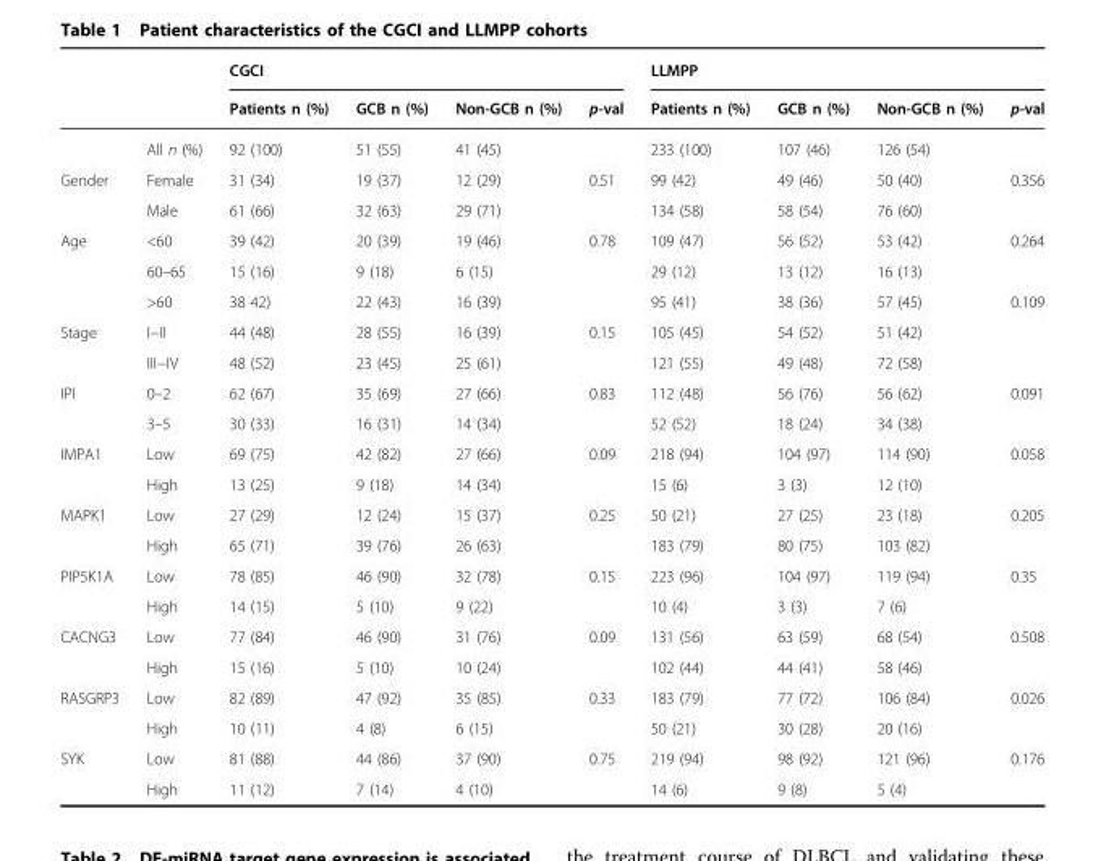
<table><thead><tr><td rowspan="2"></td><td rowspan="2"></td><td colspan="4">CGCI</td><td colspan="4">LLMPP</td></tr><tr><td>Patients n (%)</td><td>GCB n (%)</td><td>Non-GCB n (%)</td><td>p-val</td><td>Patients n (%)</td><td>GCB n (%)</td><td>Non-GCB n (%)</td><td>p-val</td></tr></thead><tbody><tr><td></td><td>All n (%)</td><td>92 (100)</td><td>51 (55)</td><td>41 (45)</td><td></td><td>233 (100)</td><td>107 (46)</td><td>126 (54)</td><td></td></tr><tr><td rowspan="2">Gender</td><td>Female</td><td>31 (34)</td><td>19 (37)</td><td>12 (29)</td><td>0.51</td><td>99 (42)</td><td>49 (46)</td><td>50 (40)</td><td>0.356</td></tr><tr><td>Male</td><td>61 (66)</td><td>32 (63)</td><td>29 (71)</td><td></td><td>134 (58)</td><td>58 (54)</td><td>76 (60)</td><td></td></tr><tr><td rowspan="3">Age</td><td>&lt;60</td><td>39 (42)</td><td>20 (39)</td><td>19 (46)</td><td>0.78</td><td>109 (47)</td><td>56 (52)</td><td>53 (42)</td><td>0.264</td></tr><tr><td>60–65</td><td>15 (16)</td><td>9 (18)</td><td>6 (15)</td><td></td><td>29 (12)</td><td>13 (12)</td><td>16 (13)</td><td></td></tr><tr><td>&gt;60</td><td>38 42)</td><td>22 (43)</td><td>16 (39)</td><td></td><td>95 (41)</td><td>38 (36)</td><td>57 (45)</td><td>0.109</td></tr><tr><td rowspan="2">Stage</td><td>I−II</td><td>44 (48)</td><td>28 (55)</td><td>16 (39)</td><td>0.15</td><td>105 (45)</td><td>54 (52)</td><td>51 (42)</td><td></td></tr><tr><td>III−IV</td><td>48 (52)</td><td>23 (45)</td><td>25 (61)</td><td></td><td>121 (55)</td><td>49 (48)</td><td>72 (58)</td><td></td></tr><tr><td rowspan="2">IPI</td><td>0–2</td><td>62 (67)</td><td>35 (69)</td><td>27 (66)</td><td>0.83</td><td>112 (48)</td><td>56 (76)</td><td>56 (62)</td><td>0.091</td></tr><tr><td>3–5</td><td>30 (33)</td><td>16 (31)</td><td>14 (34)</td><td></td><td>52 (52)</td><td>18 (24)</td><td>34 (38)</td><td></td></tr><tr><td rowspan="2">IMPA1</td><td>Low</td><td>69 (75)</td><td>42 (82)</td><td>27 (66)</td><td>0.09</td><td>218 (94)</td><td>104 (97)</td><td>114 (90)</td><td>0.058</td></tr><tr><td>High</td><td>13 (25)</td><td>9 (18)</td><td>14 (34)</td><td></td><td>15 (6)</td><td>3 (3)</td><td>12 (10)</td><td></td></tr><tr><td rowspan="2">MAPK1</td><td>Low</td><td>27 (29)</td><td>12 (24)</td><td>15 (37)</td><td>0.25</td><td>50 (21)</td><td>27 (25)</td><td>23 (18)</td><td>0.205</td></tr><tr><td>High</td><td>65 (71)</td><td>39 (76)</td><td>26 (63)</td><td></td><td>183 (79)</td><td>80 (75)</td><td>103 (82)</td><td></td></tr><tr><td rowspan="2">PIP5K1A</td><td>Low</td><td>78 (85)</td><td>46 (90)</td><td>32 (78)</td><td>0.15</td><td>223 (96)</td><td>104 (97)</td><td>119 (94)</td><td>0.35</td></tr><tr><td>High</td><td>14 (15)</td><td>5 (10)</td><td>9 (22)</td><td></td><td>10 (4)</td><td>3 (3)</td><td>7 (6)</td><td></td></tr><tr><td rowspan="2">CACNG3</td><td>Low</td><td>77 (84)</td><td>46 (90)</td><td>31 (76)</td><td>0.09</td><td>131 (56)</td><td>63 (59)</td><td>68 (54)</td><td>0.508</td></tr><tr><td>High</td><td>15 (16)</td><td>5 (10)</td><td>10 (24)</td><td></td><td>102 (44)</td><td>44 (41)</td><td>58 (46)</td><td></td></tr><tr><td rowspan="2">RASGRP3</td><td>Low</td><td>82 (89)</td><td>47 (92)</td><td>35 (85)</td><td>0.33</td><td>183 (79)</td><td>77 (72)</td><td>106 (84)</td><td>0.026</td></tr><tr><td>High</td><td>10 (11)</td><td>4 (8)</td><td>6 (15)</td><td></td><td>50 (21)</td><td>30 (28)</td><td>20 (16)</td><td></td></tr><tr><td rowspan="2">SYK</td><td>Low</td><td>81 (88)</td><td>44 (86)</td><td>37 (90)</td><td>0.75</td><td>219 (94)</td><td>98 (92)</td><td>121 (96)</td><td>0.176</td></tr><tr><td>High</td><td>11 (12)</td><td>7 (14)</td><td>4 (10)</td><td></td><td>14 (6)</td><td>9 (8)</td><td>5 (4)</td><td></td></tr></tbody></table>